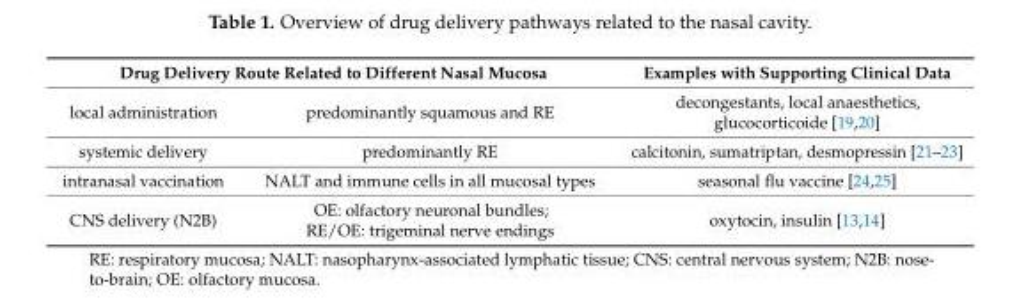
<table><thead><tr><td colspan="2">Drug Delivery Route Related to Different Nasal Mucosa</td><td rowspan="2">Examples with Supporting Clinical Data decongestants, local anaesthetics, glucocorticoide [19,20]</td></tr><tr><td>local administration</td><td>predominantly squamous and RE</td></tr></thead><tbody><tr><td>systemic delivery</td><td>predominantly RE</td><td>calcitonin, sumatriptan, desmopressin [21–23]</td></tr><tr><td>intranasal vaccination</td><td>NALT and immune cells in all mucosal types</td><td>seasonal flu vaccine [24,25]</td></tr><tr><td>CNS delivery (N2B)</td><td>OE: olfactory neuronal bundles; RE/OE: trigeminal nerve endings</td><td>oxytocin, insulin [13,14]</td></tr></tbody></table>